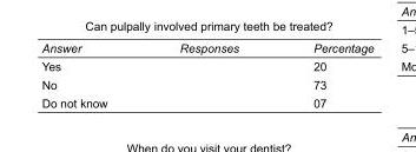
<table><tbody><tr><td>Answer</td><td>Responses</td><td>Percentage</td></tr><tr><td>Yes</td><td></td><td>20</td></tr><tr><td>No</td><td></td><td>73</td></tr><tr><td>Do not know</td><td></td><td>07</td></tr></tbody></table>